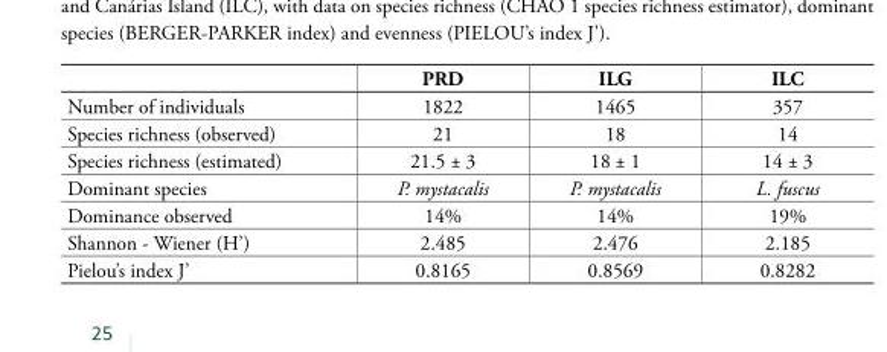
<table><thead><tr><td></td><td>PRD</td><td>ILG</td><td>ILC</td></tr></thead><tbody><tr><td>Number of individuals</td><td>1822</td><td>1465</td><td>357</td></tr><tr><td>Species richness (observed)</td><td>21</td><td>18</td><td>14</td></tr><tr><td>Species richness (estimated)</td><td>21.5 ± 3</td><td>18 ± 1</td><td>14 ± 3</td></tr><tr><td>Dominant species</td><td>P. mystacalis</td><td>P. mystacalis</td><td>L. fuscus</td></tr><tr><td>Dominance observed</td><td>14%</td><td>14%</td><td>19%</td></tr><tr><td>Shannon - Wiener (H’)</td><td>2.485</td><td>2.476</td><td>2.185</td></tr><tr><td>Pielou’s index J’</td><td>0.8165</td><td>0.8569</td><td>0.8282</td></tr></tbody></table>